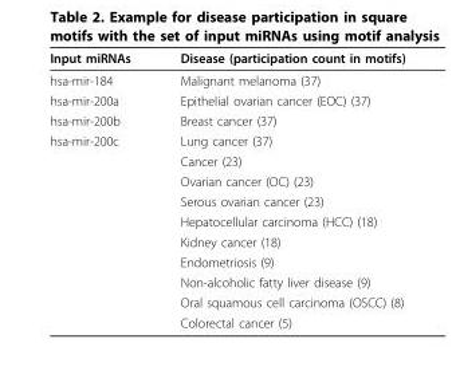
<table><thead><tr><td>Input miRNAs</td><td>Disease (participation count in motifs)</td></tr></thead><tbody><tr><td>hsa-mir-184</td><td>Malignant melanoma (37)</td></tr><tr><td>hsa-mir-200a</td><td>Epithelial ovarian cancer (EOC) (37)</td></tr><tr><td>hsa-mir-200b</td><td>Breast cancer (37)</td></tr><tr><td rowspan="10">hsa-mir-200c</td><td>Lung cancer (37)</td></tr><tr><td>Cancer (23)</td></tr><tr><td>Ovarian cancer (OC) (23)</td></tr><tr><td>Serous ovarian cancer (23)</td></tr><tr><td>Hepatocellular carcinoma (HCC) (18)</td></tr><tr><td>Kidney cancer (18)</td></tr><tr><td>Endometriosis (9)</td></tr><tr><td>Non-alcoholic fatty liver disease (9)</td></tr><tr><td>Oral squamous cell carcinoma (OSCC) (8)</td></tr><tr><td>Colorectal cancer (5)</td></tr></tbody></table>